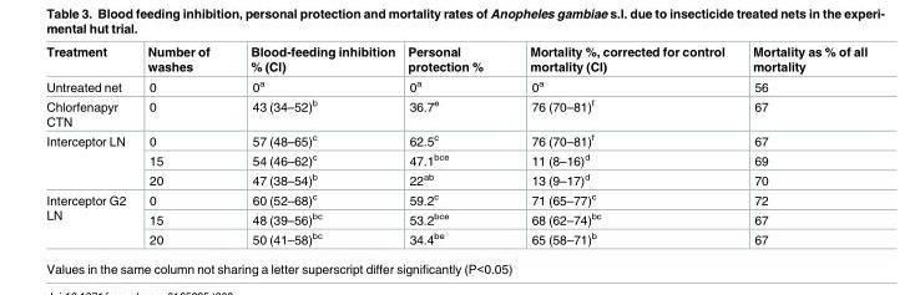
<table><thead><tr><td>Treatment</td><td>Number of washes</td><td>Blood-feeding inhibition % (CI)</td><td>Personal protection %</td><td>Mortality %, corrected for control mortality (CI)</td><td>Mortality as % of all mortality</td></tr></thead><tbody><tr><td>Untreated net</td><td>0</td><td>0<sup>a</sup></td><td>0<sup>a</sup></td><td>0<sup>a</sup></td><td>56</td></tr><tr><td>Chlorfenapyr CTN</td><td>0</td><td>43 (34–52)<sup>b</sup></td><td>36.7<sup>e</sup></td><td>76 (70–81)<sup>f</sup></td><td>67</td></tr><tr><td rowspan="3">Interceptor LN</td><td>0</td><td>57 (48–65)<sup>c</sup></td><td>62.5<sup>c</sup></td><td>76 (70–81)<sup>f</sup></td><td>67</td></tr><tr><td>15</td><td>54 (46–62)<sup>c</sup></td><td>47.1<sup>bce</sup></td><td>11 (8–16)<sup>d</sup></td><td>69</td></tr><tr><td>20</td><td>47 (38–54)<sup>b</sup></td><td>22<sup>ab</sup></td><td>13 (9–17)<sup>d</sup></td><td>70</td></tr><tr><td rowspan="3">Interceptor G2 LN</td><td>0</td><td>60 (52–68)<sup>c</sup></td><td>59.2<sup>c</sup></td><td>71 (65–77)<sup>c</sup></td><td>72</td></tr><tr><td>15</td><td>48 (39–56)<sup>bc</sup></td><td>53.2<sup>bce</sup></td><td>68 (62–74)<sup>bc</sup></td><td>67</td></tr><tr><td>20</td><td>50 (41–58)<sup>bc</sup></td><td>34.4<sup>be</sup></td><td>65 (58–71)<sup>b</sup></td><td>67</td></tr></tbody></table>